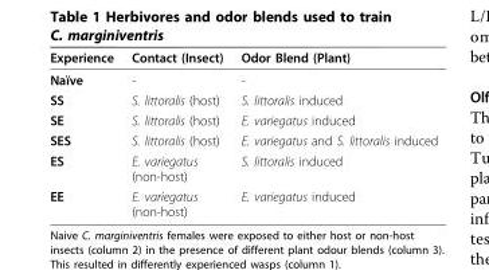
<table><thead><tr><td>Experience</td><td>Contact (Insect)</td><td>Odor Blend (Plant)</td></tr></thead><tbody><tr><td>Naïve</td><td>-</td><td>-</td></tr><tr><td>SS</td><td>S. littoralis (host)</td><td>S. littoralis induced</td></tr><tr><td>SE</td><td>S. littoralis (host)</td><td>E. variegatus induced</td></tr><tr><td>SES</td><td>S. littoralis (host)</td><td>E. variegatus and S. littoralis induced</td></tr><tr><td>ES</td><td>E. variegatus (non-host)</td><td>S. littoralis induced</td></tr><tr><td>EE</td><td>E. variegatus (non-host)</td><td>E. variegatus induced</td></tr></tbody></table>